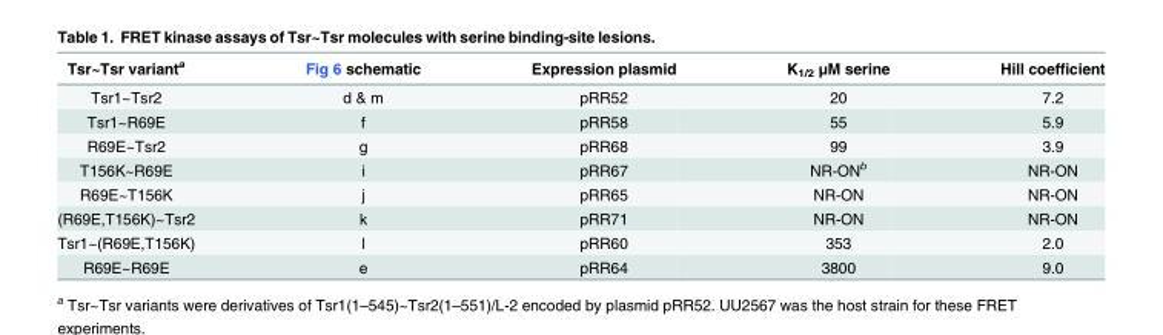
<table><thead><tr><td>Tsr~Tsr variant<sup>a</sup></td><td>Fig 6 schematic</td><td>Expression plasmid</td><td>K<sub>1/2</sub> μM serine</td><td>Hill coefficient</td></tr></thead><tbody><tr><td>Tsr1~Tsr2</td><td>d &amp; m</td><td>pRR52</td><td>20</td><td>7.2</td></tr><tr><td>Tsr1~R69E</td><td>f</td><td>pRR58</td><td>55</td><td>5.9</td></tr><tr><td>R69E~Tsr2</td><td>g</td><td>pRR68</td><td>99</td><td>3.9</td></tr><tr><td>T156K~R69E</td><td>i</td><td>pRR67</td><td>NR-ON<sup>b</sup></td><td>NR-ON</td></tr><tr><td>R69E~T156K</td><td>j</td><td>pRR65</td><td>NR-ON</td><td>NR-ON</td></tr><tr><td>(R69E,T156K)~Tsr2</td><td>k</td><td>pRR71</td><td>NR-ON</td><td>NR-ON</td></tr><tr><td>Tsr1~(R69E,T156K)</td><td>l</td><td>pRR60</td><td>353</td><td>2.0</td></tr><tr><td>R69E~R69E</td><td>e</td><td>pRR64</td><td>3800</td><td>9.0</td></tr></tbody></table>